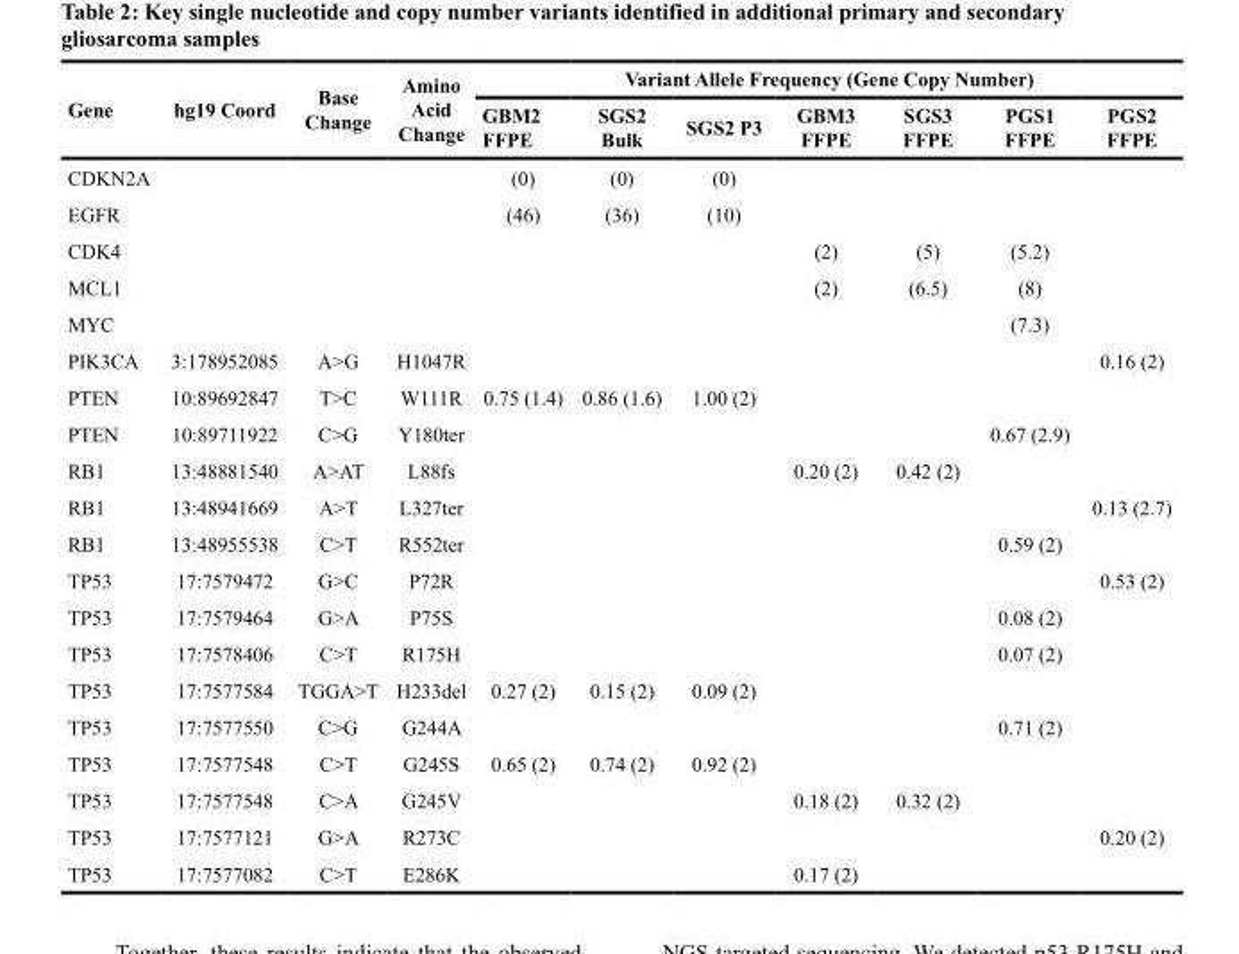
<table><thead><tr><td rowspan="2">Gene</td><td rowspan="2">hg19 Coord</td><td rowspan="2">Base Change</td><td rowspan="2">Amino Acid Change</td><td colspan="7">Variant Allele Frequency (Gene Copy Number)</td></tr><tr><td>GBM2 FFPE</td><td>SGS2 Bulk</td><td>SGS2 P3</td><td>GBM3 FFPE</td><td>SGS3 FFPE</td><td>PGS1 FFPE</td><td>PGS2 FFPE</td></tr></thead><tbody><tr><td>CDKN2A</td><td></td><td></td><td></td><td>(0)</td><td>(0)</td><td>(0)</td><td></td><td></td><td></td><td></td></tr><tr><td>EGFR</td><td></td><td></td><td></td><td>(46)</td><td>(36)</td><td>(10)</td><td></td><td></td><td></td><td></td></tr><tr><td>CDK4</td><td></td><td></td><td></td><td></td><td></td><td></td><td>(2)</td><td>(5)</td><td>(5.2)</td><td></td></tr><tr><td>MCL1</td><td></td><td></td><td></td><td></td><td></td><td></td><td>(2)</td><td>(6.5)</td><td>(8)</td><td></td></tr><tr><td>MYC</td><td></td><td></td><td></td><td></td><td></td><td></td><td></td><td></td><td>(7.3)</td><td></td></tr><tr><td>PIK3CA</td><td>3:178952085</td><td>A&gt;G</td><td>H1047R</td><td></td><td></td><td></td><td></td><td></td><td></td><td>0.16 (2)</td></tr><tr><td>PTEN</td><td>10:89692847</td><td>T&gt;C</td><td>W111R</td><td>0.75 (1.4)</td><td>0.86 (1.6)</td><td>1.00 (2)</td><td></td><td></td><td></td><td></td></tr><tr><td>PTEN</td><td>10:89711922</td><td>C&gt;G</td><td>Y180ter</td><td></td><td></td><td></td><td></td><td></td><td>0.67 (2.9)</td><td></td></tr><tr><td>RB1</td><td>13:48881540</td><td>A&gt;AT</td><td>L88fs</td><td></td><td></td><td></td><td>0.20 (2)</td><td>0.42 (2)</td><td></td><td></td></tr><tr><td>RB1</td><td>13:48941669</td><td>A&gt;T</td><td>L327ter</td><td></td><td></td><td></td><td></td><td></td><td></td><td>0.13 (2.7)</td></tr><tr><td>RB1</td><td>13:48955538</td><td>C&gt;T</td><td>R552ter</td><td></td><td></td><td></td><td></td><td></td><td>0.59 (2)</td><td></td></tr><tr><td>TP53</td><td>17:7579472</td><td>G&gt;C</td><td>P72R</td><td></td><td></td><td></td><td></td><td></td><td></td><td>0.53 (2)</td></tr><tr><td>TP53</td><td>17:7579464</td><td>G&gt;A</td><td>P75S</td><td></td><td></td><td></td><td></td><td></td><td>0.08 (2)</td><td></td></tr><tr><td>TP53</td><td>17:7578406</td><td>C&gt;T</td><td>R175H</td><td></td><td></td><td></td><td></td><td></td><td>0.07 (2)</td><td></td></tr><tr><td>TP53</td><td>17:7577584</td><td>TGGA&gt;T</td><td>H233del</td><td>0.27 (2)</td><td>0.15 (2)</td><td>0.09 (2)</td><td></td><td></td><td></td><td></td></tr><tr><td>TP53</td><td>17:7577550</td><td>C&gt;G</td><td>G244A</td><td></td><td></td><td></td><td></td><td></td><td>0.71 (2)</td><td></td></tr><tr><td>TP53</td><td>17:7577548</td><td>C&gt;T</td><td>G245S</td><td>0.65 (2)</td><td>0.74 (2)</td><td>0.92 (2)</td><td></td><td></td><td></td><td></td></tr><tr><td>TP53</td><td>17:7577548</td><td>C&gt;A</td><td>G245V</td><td></td><td></td><td></td><td>0.18 (2)</td><td>0.32 (2)</td><td></td><td></td></tr><tr><td>TP53</td><td>17:7577121</td><td>G&gt;A</td><td>R273C</td><td></td><td></td><td></td><td></td><td></td><td></td><td>0.20 (2)</td></tr><tr><td>TP53</td><td>17:7577082</td><td>C&gt;T</td><td>E286K</td><td></td><td></td><td></td><td>0.17 (2)</td><td></td><td></td><td></td></tr></tbody></table>